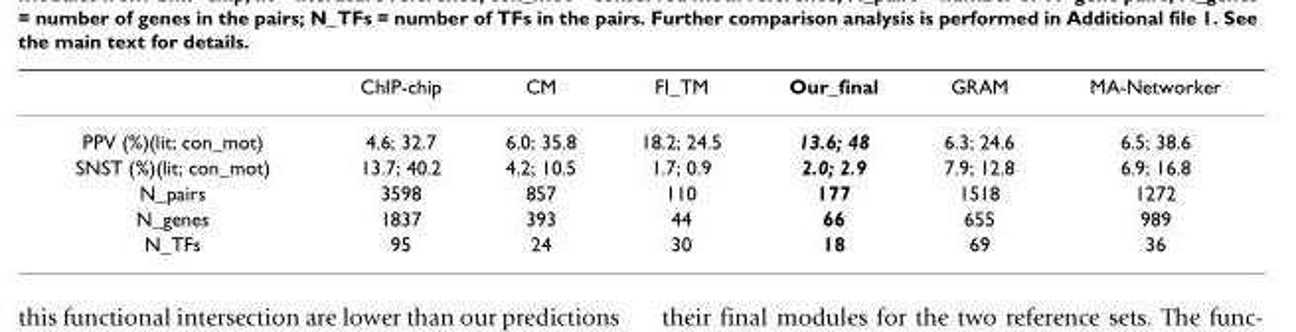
<table><thead><tr><td></td><td>ChIP-chip</td><td>CM</td><td>FI_TM</td><td>Our_final</td><td>GRAM</td><td>MA-Networker</td></tr></thead><tbody><tr><td>PPV (%)(lit; con_mot)</td><td>4.6; 32.7</td><td>6.0; 35.8</td><td>18.2; 24.5</td><td>13.6; 48</td><td>6.3; 24.6</td><td>6.5; 38.6</td></tr><tr><td>SNST (%)(lit; con_mot)</td><td>13.7; 40.2</td><td>4.2; 10.5</td><td>1.7; 0.9</td><td>2.0; 2.9</td><td>7.9; 12.8</td><td>6.9; 16.8</td></tr><tr><td>N_pairs</td><td>3598</td><td>857</td><td>110</td><td>177</td><td>1518</td><td>1272</td></tr><tr><td>N_genes</td><td>1837</td><td>393</td><td>44</td><td>66</td><td>655</td><td>989</td></tr><tr><td>N_TFs</td><td>95</td><td>24</td><td>30</td><td>18</td><td>69</td><td>36</td></tr></tbody></table>